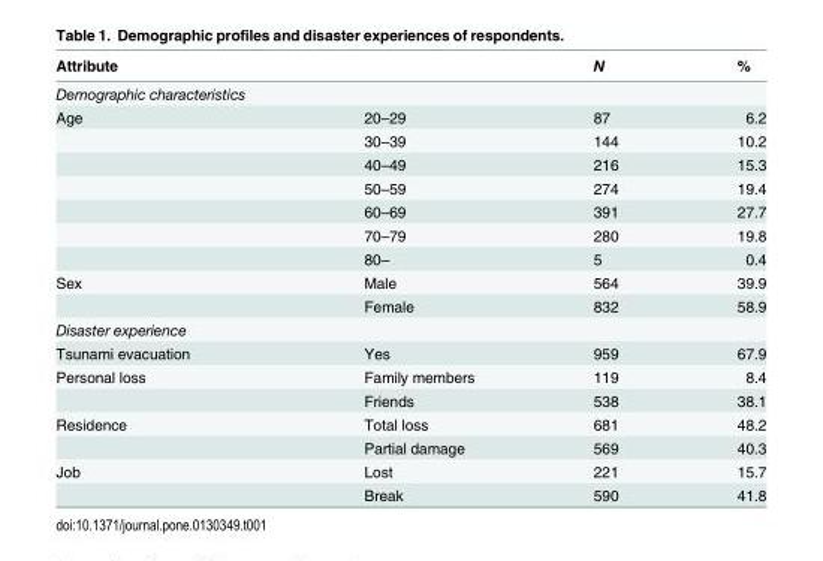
<table><thead><tr><td>Attribute</td><td></td><td>N</td><td>%</td></tr></thead><tbody><tr><td colspan="4">Demographic characteristics</td></tr><tr><td rowspan="7">Age</td><td>20–29</td><td>87</td><td>6.2</td></tr><tr><td>30–39</td><td>144</td><td>10.2</td></tr><tr><td>40–49</td><td>216</td><td>15.3</td></tr><tr><td>50–59</td><td>274</td><td>19.4</td></tr><tr><td>60–69</td><td>391</td><td>27.7</td></tr><tr><td>70–79</td><td>280</td><td>19.8</td></tr><tr><td>80–</td><td>5</td><td>0.4</td></tr><tr><td rowspan="2">Sex</td><td>Male</td><td>564</td><td>39.9</td></tr><tr><td>Female</td><td>832</td><td>58.9</td></tr><tr><td colspan="4">Disaster experience</td></tr><tr><td>Tsunami evacuation</td><td>Yes</td><td>959</td><td>67.9</td></tr><tr><td rowspan="2">Personal loss</td><td>Family members</td><td>119</td><td>8.4</td></tr><tr><td>Friends</td><td>538</td><td>38.1</td></tr><tr><td rowspan="2">Residence</td><td>Total loss</td><td>681</td><td>48.2</td></tr><tr><td>Partial damage</td><td>569</td><td>40.3</td></tr><tr><td rowspan="2">Job</td><td>Lost</td><td>221</td><td>15.7</td></tr><tr><td>Break</td><td>590</td><td>41.8</td></tr></tbody></table>